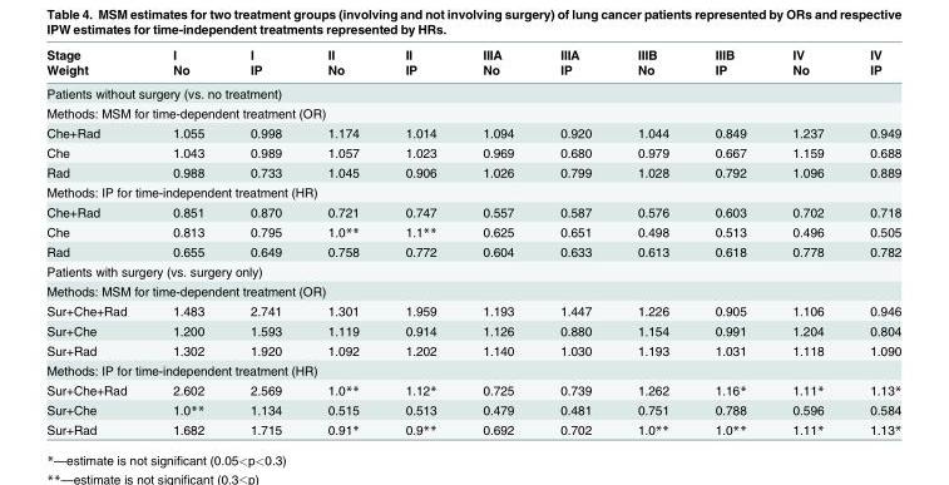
<table><thead><tr><td rowspan="2">Stage Weight</td><td rowspan="2">I No</td><td rowspan="2">I IP</td><td rowspan="2">II No</td><td rowspan="2">II IP</td><td rowspan="2">IIIA No</td><td rowspan="2">IIIA IP</td><td rowspan="2">IIIB No</td><td rowspan="2">IIIB IP</td><td rowspan="2">IV No</td><td rowspan="2">IV IP</td></tr><tr></tr></thead><tbody><tr><td colspan="11">Patients without surgery (vs. no treatment)</td></tr><tr><td colspan="11">Methods: MSM for time-dependent treatment (OR)</td></tr><tr><td>Che+Rad</td><td>1.055</td><td>0.998</td><td>1.174</td><td>1.014</td><td>1.094</td><td>0.920</td><td>1.044</td><td>0.849</td><td>1.237</td><td>0.949</td></tr><tr><td>Che</td><td>1.043</td><td>0.989</td><td>1.057</td><td>1.023</td><td>0.969</td><td>0.680</td><td>0.979</td><td>0.667</td><td>1.159</td><td>0.688</td></tr><tr><td>Rad</td><td>0.988</td><td>0.733</td><td>1.045</td><td>0.906</td><td>1.026</td><td>0.799</td><td>1.028</td><td>0.792</td><td>1.096</td><td>0.889</td></tr><tr><td colspan="11">Methods: IP for time-independent treatment (HR)</td></tr><tr><td>Che+Rad</td><td>0.851</td><td>0.870</td><td>0.721</td><td>0.747</td><td>0.557</td><td>0.587</td><td>0.576</td><td>0.603</td><td>0.702</td><td>0.718</td></tr><tr><td>Che</td><td>0.813</td><td>0.795</td><td>1.0**</td><td>1.1**</td><td>0.625</td><td>0.651</td><td>0.498</td><td>0.513</td><td>0.496</td><td>0.505</td></tr><tr><td>Rad</td><td>0.655</td><td>0.649</td><td>0.758</td><td>0.772</td><td>0.604</td><td>0.633</td><td>0.613</td><td>0.618</td><td>0.778</td><td>0.782</td></tr><tr><td colspan="11">Patients with surgery (vs. surgery only)</td></tr><tr><td colspan="11">Methods: MSM for time-dependent treatment (OR)</td></tr><tr><td>Sur+Che+Rad</td><td>1.483</td><td>2.741</td><td>1.301</td><td>1.959</td><td>1.193</td><td>1.447</td><td>1.226</td><td>0.905</td><td>1.106</td><td>0.946</td></tr><tr><td>Sur+Che</td><td>1.200</td><td>1.593</td><td>1.119</td><td>0.914</td><td>1.126</td><td>0.880</td><td>1.154</td><td>0.991</td><td>1.204</td><td>0.804</td></tr><tr><td>Sur+Rad</td><td>1.302</td><td>1.920</td><td>1.092</td><td>1.202</td><td>1.140</td><td>1.030</td><td>1.193</td><td>1.031</td><td>1.118</td><td>1.090</td></tr><tr><td colspan="11">Methods: IP for time-independent treatment (HR)</td></tr><tr><td>Sur+Che+Rad</td><td>2.602</td><td>2.569</td><td>1.0**</td><td>1.12*</td><td>0.725</td><td>0.739</td><td>1.262</td><td>1.16*</td><td>1.11*</td><td>1.13*</td></tr><tr><td>Sur+Che</td><td>1.0**</td><td>1.134</td><td>0.515</td><td>0.513</td><td>0.479</td><td>0.481</td><td>0.751</td><td>0.788</td><td>0.596</td><td>0.584</td></tr><tr><td>Sur+Rad</td><td>1.682</td><td>1.715</td><td>0.91*</td><td>0.9**</td><td>0.692</td><td>0.702</td><td>1.0**</td><td>1.0**</td><td>1.11*</td><td>1.13*</td></tr></tbody></table>